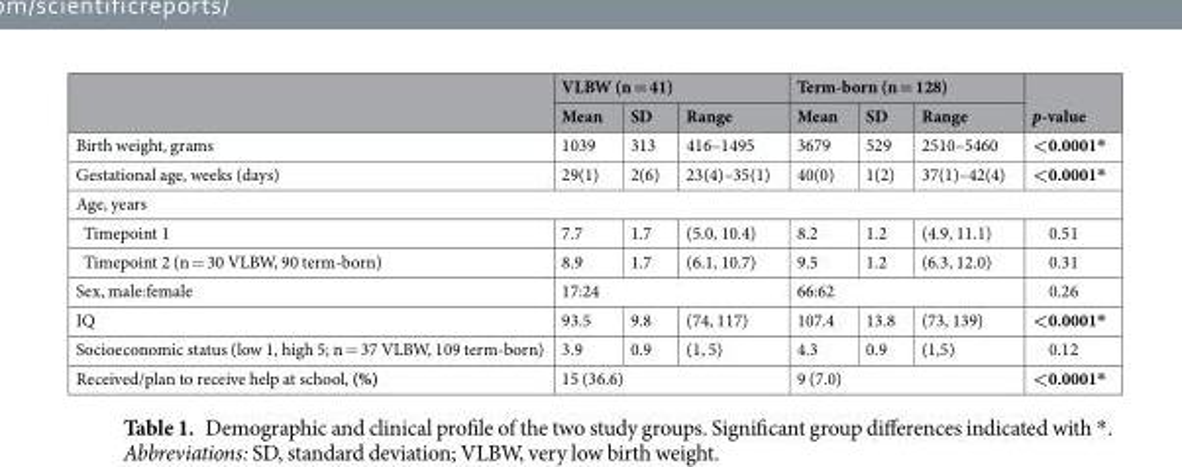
<table><thead><tr><td rowspan="2"></td><td colspan="3">VLBW (n = 41)</td><td colspan="3">Term-born (n = 128)</td><td rowspan="2">p-value</td></tr><tr><td>Mean</td><td>SD</td><td>Range</td><td>Mean</td><td>SD</td><td>Range</td></tr></thead><tbody><tr><td>Birth weight, grams</td><td>1039</td><td>313</td><td>416–1495</td><td>3679</td><td>529</td><td>2510–5460</td><td>&lt;0.0001*</td></tr><tr><td>Gestational age, weeks (days)</td><td>29(1)</td><td>2(6)</td><td>23(4)–35(1)</td><td>40(0)</td><td>1(2)</td><td>37(1)–42(4)</td><td>&lt;0.0001*</td></tr><tr><td colspan="8">Age, years</td></tr><tr><td>Timepoint 1</td><td>7.7</td><td>1.7</td><td>(5.0, 10.4)</td><td>8.2</td><td>1.2</td><td>(4.9, 11.1)</td><td>0.51</td></tr><tr><td>Timepoint 2 (n = 30 VLBW, 90 term-born)</td><td>8.9</td><td>1.7</td><td>(6.1, 10.7)</td><td>9.5</td><td>1.2</td><td>(6.3, 12.0)</td><td>0.31</td></tr><tr><td>Sex, male:female</td><td colspan="3">17:24</td><td colspan="3">66:62</td><td>0.26</td></tr><tr><td>IQ</td><td>93.5</td><td>9.8</td><td>(74, 117)</td><td>107.4</td><td>13.8</td><td>(73, 139)</td><td>&lt;0.0001*</td></tr><tr><td>Socioeconomic status (low 1, high 5; n = 37 VLBW, 109 term-born)</td><td>3.9</td><td>0.9</td><td>(1, 5)</td><td>4.3</td><td>0.9</td><td>(1,5)</td><td>0.12</td></tr><tr><td>Received/plan to receive help at school, (%)</td><td colspan="3">15 (36.6)</td><td colspan="3">9 (7.0)</td><td>&lt;0.0001*</td></tr></tbody></table>